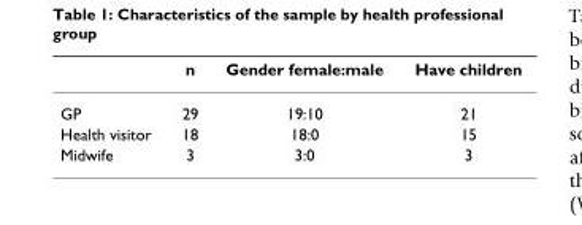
<table><thead><tr><td></td><td>n</td><td>Gender female:male</td><td>Have children</td></tr></thead><tbody><tr><td>GP</td><td>29</td><td>19:10</td><td>21</td></tr><tr><td>Health visitor</td><td>18</td><td>18:0</td><td>15</td></tr><tr><td>Midwife</td><td>3</td><td>3:0</td><td>3</td></tr></tbody></table>